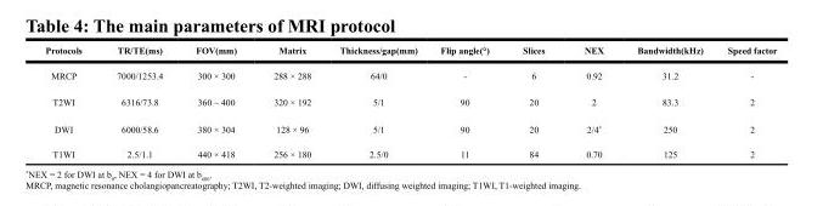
<table><thead><tr><td>Protocols</td><td>TR/TE(ms)</td><td>FOV(mm)</td><td>Matrix</td><td>Thickness/gap(mm)</td><td>Flip angle(°)</td><td>Slices</td><td>NEX</td><td>Bandwidth(kHz)</td><td>Speed factor</td></tr></thead><tbody><tr><td>MRCP</td><td>7000/1253.4</td><td>300 × 300</td><td>288 × 288</td><td>64/0</td><td>-</td><td>6</td><td>0.92</td><td>31.2</td><td>-</td></tr><tr><td>T2WI</td><td>6316/73.8</td><td>360 ~ 400</td><td>320 × 192</td><td>5/1</td><td>90</td><td>20</td><td>2</td><td>83.3</td><td>2</td></tr><tr><td>DWI</td><td>6000/58.6</td><td>380 × 304</td><td>128 × 96</td><td>5/1</td><td>90</td><td>20</td><td>2/4*</td><td>250</td><td>2</td></tr><tr><td>T1WI</td><td>2.5/1.1</td><td>440 × 418</td><td>256 × 180</td><td>2.5/0</td><td>11</td><td>84</td><td>0.70</td><td>125</td><td>2</td></tr></tbody></table>